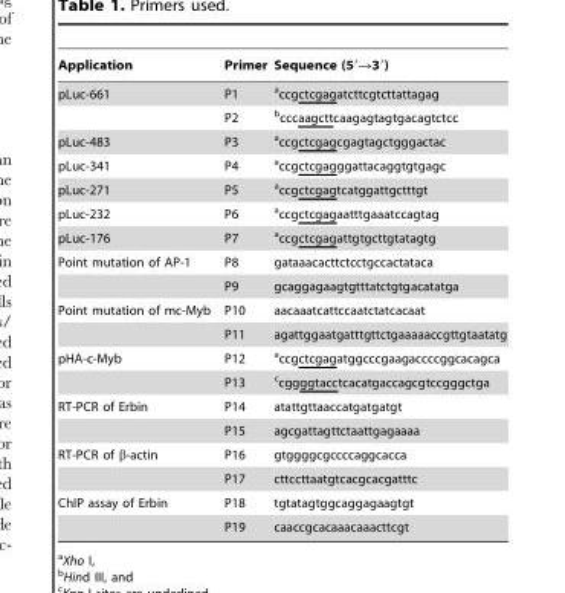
<table><thead><tr><td>Application</td><td>Primer</td><td>Sequence (5′→3′)</td></tr></thead><tbody><tr><td rowspan="2">pLuc-661</td><td>P1</td><td>accgctcgagatcttcgtcttattagag</td></tr><tr><td>P2</td><td>bcccaagcttcaagagtagtgacagtctcc</td></tr><tr><td>pLuc-483</td><td>P3</td><td>accgctcgagcgagtagctgggactac</td></tr><tr><td>pLuc-341</td><td>P4</td><td>accgctcgagggattacaggtgtgagc</td></tr><tr><td>pLuc-271</td><td>P5</td><td>accgctcgagtcatggattgctttgt</td></tr><tr><td>pLuc-232</td><td>P6</td><td>accgctcgagaatttgaaatccagtag</td></tr><tr><td>pLuc-176</td><td>P7</td><td>accgctcgagattgtgcttgtatagtg</td></tr><tr><td rowspan="2">Point mutation of AP-1</td><td>P8</td><td>gataaacacttctcctgccactataca</td></tr><tr><td>P9</td><td>gcaggagaagtgtttatctgtgacatatga</td></tr><tr><td rowspan="2">Point mutation of mc-Myb</td><td>P10</td><td>aacaaatcattccaatctatcacaat</td></tr><tr><td>P11</td><td>agattggaatgatttgttctgaaaaaccgttgtaatatg</td></tr><tr><td rowspan="2">pHA-c-Myb</td><td>P12</td><td>accgctcgagatggcccgaagaccccggcacagca</td></tr><tr><td>P13</td><td>ccggggtacctcacatgaccagcgtccgggctga</td></tr><tr><td rowspan="2">RT-PCR of Erbin</td><td>P14</td><td>atattgttaaccatgatgatgt</td></tr><tr><td>P15</td><td>agcgattagttctaattgagaaaa</td></tr><tr><td rowspan="2">RT-PCR of β-actin</td><td>P16</td><td>gtggggcgccccaggcacca</td></tr><tr><td>P17</td><td>cttccttaatgtcacgcacgatttc</td></tr><tr><td rowspan="2">ChIP assay of Erbin</td><td>P18</td><td>tgtatagtggcaggagaagtgt</td></tr><tr><td>P19</td><td>caaccgcacaaacaaacttcgt</td></tr></tbody></table>